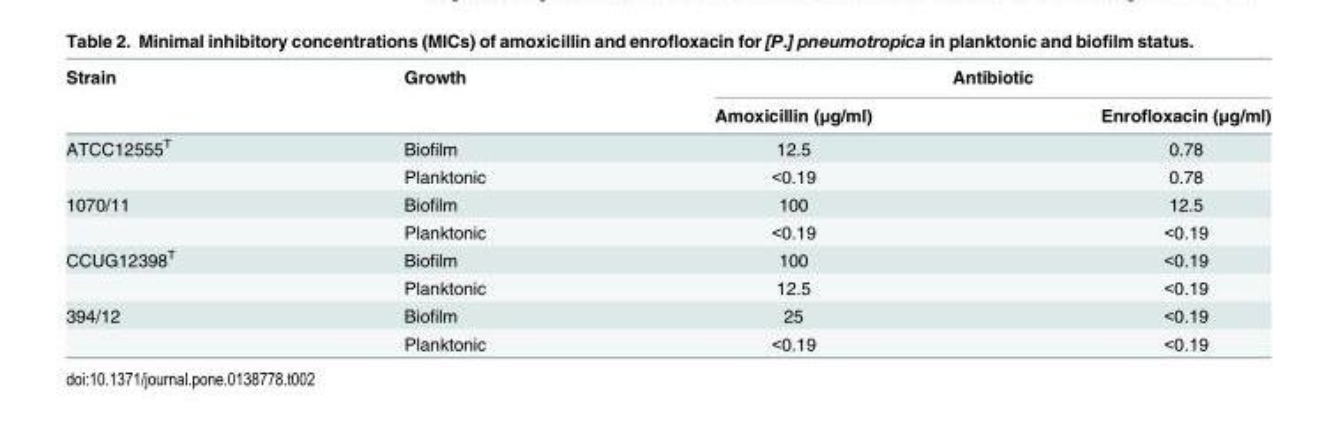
<table><thead><tr><td rowspan="2">Strain</td><td rowspan="2">Growth</td><td colspan="2">Antibiotic</td></tr><tr><td>Amoxicillin (μg/ml)</td><td>Enrofloxacin (μg/ml)</td></tr></thead><tbody><tr><td rowspan="2">ATCC12555<sup>T</sup></td><td>Biofilm</td><td>12.5</td><td>0.78</td></tr><tr><td>Planktonic</td><td>&lt;0.19</td><td>0.78</td></tr><tr><td rowspan="2">1070/11</td><td>Biofilm</td><td>100</td><td>12.5</td></tr><tr><td>Planktonic</td><td>&lt;0.19</td><td>&lt;0.19</td></tr><tr><td rowspan="2">CCUG12398<sup>T</sup></td><td>Biofilm</td><td>100</td><td>&lt;0.19</td></tr><tr><td>Planktonic</td><td>12.5</td><td>&lt;0.19</td></tr><tr><td rowspan="2">394/12</td><td>Biofilm</td><td>25</td><td>&lt;0.19</td></tr><tr><td>Planktonic</td><td>&lt;0.19</td><td>&lt;0.19</td></tr></tbody></table>